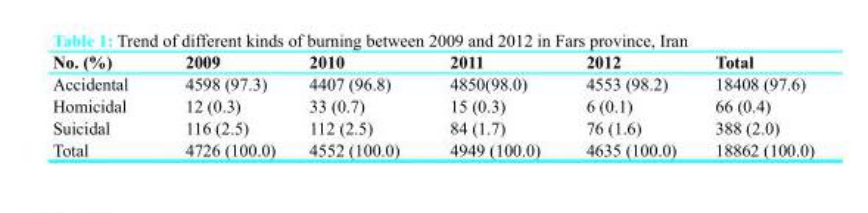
<table><thead><tr><td>No. (%)</td><td>2009</td><td>2010</td><td>2011</td><td>2012</td><td>Total</td></tr></thead><tbody><tr><td>Accidental</td><td>4598 (97.3)</td><td>4407 (96.8)</td><td>4850(98.0)</td><td>4553 (98.2)</td><td>18408 (97.6)</td></tr><tr><td>Homicidal</td><td>12 (0.3)</td><td>33 (0.7)</td><td>15 (0.3)</td><td>6 (0.1)</td><td>66 (0.4)</td></tr><tr><td>Suicidal</td><td>116 (2.5)</td><td>112 (2.5)</td><td>84 (1.7)</td><td>76 (1.6)</td><td>388 (2.0)</td></tr><tr><td>Total</td><td>4726 (100.0)</td><td>4552 (100.0)</td><td>4949 (100.0)</td><td>4635 (100.0)</td><td>18862 (100.0)</td></tr></tbody></table>